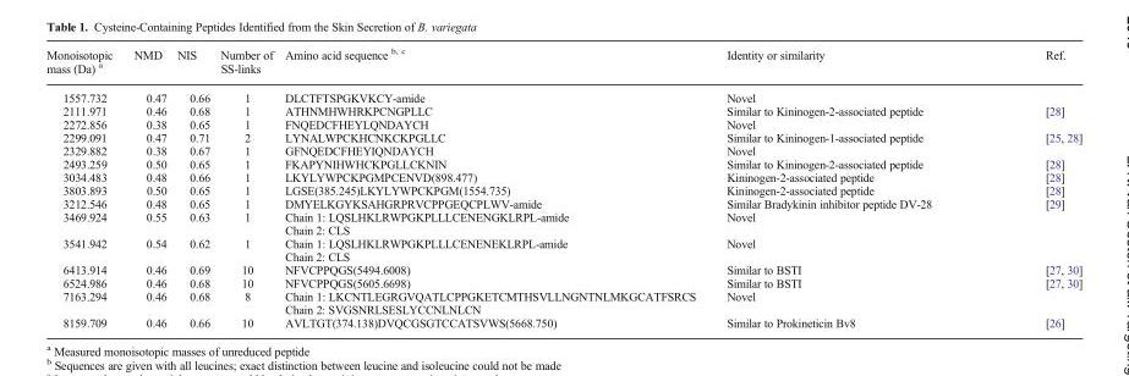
<table><thead><tr><td>Monoisotopic mass (Da) <sup>a</sup></td><td>NMD</td><td>NIS</td><td>Number of SS-links</td><td>Amino acid sequence <sup>b, c</sup></td><td>Identity or similarity</td><td>Ref.</td></tr></thead><tbody><tr><td>1557.732</td><td>0.47</td><td>0.66</td><td>1</td><td>DLCTFTSPGKVKCY-amide</td><td>Novel</td><td></td></tr><tr><td>2111.971</td><td>0.46</td><td>0.68</td><td>1</td><td>ATHNMHWHRKPCNGPLLC</td><td>Similar to Kininogen-2-associated peptide</td><td>[28]</td></tr><tr><td>2272.856</td><td>0.38</td><td>0.65</td><td>1</td><td>FNQEDCFHEYLQNDAYCH</td><td>Novel</td><td></td></tr><tr><td>2299.091</td><td>0.47</td><td>0.71</td><td>2</td><td>LYNALWPCKHCNKCKPGLLC</td><td>Similar to Kininogen-1-associated peptide</td><td>[25, 28]</td></tr><tr><td>2329.882</td><td>0.38</td><td>0.67</td><td>1</td><td>GFNQEDCFHEYIQNDAYCH</td><td>Novel</td><td></td></tr><tr><td>2493.259</td><td>0.50</td><td>0.65</td><td>1</td><td>FKAPYNIHWHCKPGLLCKNIN</td><td>Similar to Kininogen-2-associated peptide</td><td>[28]</td></tr><tr><td>3034.483</td><td>0.48</td><td>0.66</td><td>1</td><td>LKYLYWPCKPGMPCENVD(898.477)</td><td>Kininogen-2-associated peptide</td><td>[28]</td></tr><tr><td>3803.893</td><td>0.50</td><td>0.65</td><td>1</td><td>LGSE(385.245)LKYLYWPCKPGM(1554.735)</td><td>Kininogen-2-associated peptide</td><td>[28]</td></tr><tr><td>3212.546</td><td>0.48</td><td>0.65</td><td>1</td><td>DMYELKGYKSAHGRPRVCPPGEQCPLWV-amide</td><td>Similar Bradykinin inhibitor peptide DV-28</td><td>[29]</td></tr><tr><td>3469.924</td><td>0.55</td><td>0.63</td><td>1</td><td>Chain 1: LQSLHKLRWPGKPLLLCENENGKLRPL-amide Chain 2: CLS</td><td>Novel</td><td></td></tr><tr><td>3541.942</td><td>0.54</td><td>0.62</td><td>1</td><td>Chain 1: LQSLHKLRWPGKPLLLCENENEKLRPL-amide Chain 2: CLS</td><td>Novel</td><td></td></tr><tr><td>6413.914</td><td>0.46</td><td>0.69</td><td>10</td><td>NFVCPPQGS(5494.6008)</td><td>Similar to BSTI</td><td>[27, 30]</td></tr><tr><td>6524.986</td><td>0.46</td><td>0.68</td><td>10</td><td>NFVCPPQGS(5605.6698)</td><td>Similar to BSTI</td><td>[27, 30]</td></tr><tr><td>7163.294</td><td>0.46</td><td>0.68</td><td>8</td><td>Chain 1: LKCNTLEGRGVQATLCPPGKETCMTHSVLLNGNTNLMKGCATFSRCS Chain 2: SVGSNRLSESLYCCNLNLCN</td><td>Novel</td><td></td></tr><tr><td>8159.709</td><td>0.46</td><td>0.66</td><td>10</td><td>AVLTGT(374.138)DVQCGSGTCCATSVWS(5668.750)</td><td>Similar to Prokineticin Bv8</td><td>[26]</td></tr></tbody></table>